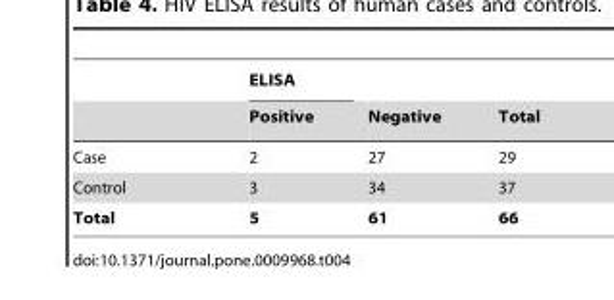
<table><thead><tr><td rowspan="2"></td><td rowspan="2">ELISA Positive</td><td rowspan="2">Negative</td><td rowspan="2">Total</td></tr><tr></tr></thead><tbody><tr><td>Case</td><td>2</td><td>27</td><td>29</td></tr><tr><td>Control</td><td>3</td><td>34</td><td>37</td></tr><tr><td>Total</td><td>5</td><td>61</td><td>66</td></tr></tbody></table>